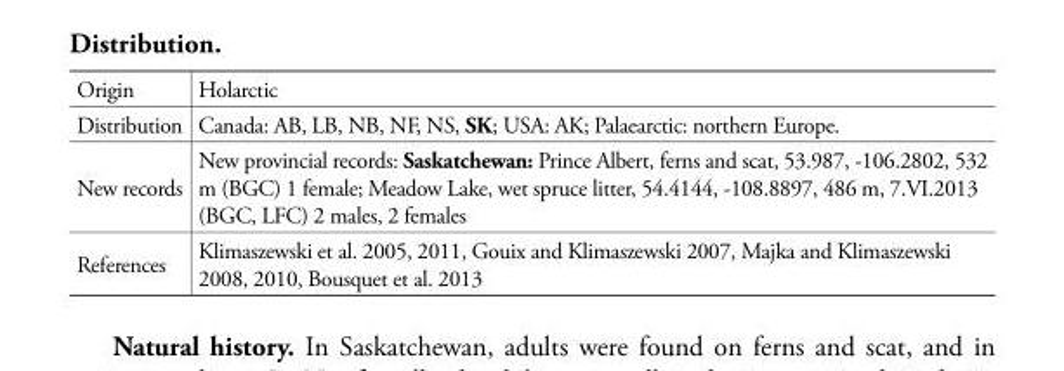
<table><tbody><tr><td>Origin</td><td>Holarctic</td></tr><tr><td>Distribution</td><td>Canada: AB, LB, NB, NF, NS, SK; USA: AK; Palaearctic: northern Europe.</td></tr><tr><td>New records</td><td>New provincial records: Saskatchewan: Prince Albert, ferns and scat, 53.987, -106.2802, 532 m (BGC) 1 female; Meadow Lake, wet spruce litter, 54.4144, -108.8897, 486 m, 7.VI.2013 (BGC, LFC) 2 males, 2 females</td></tr><tr><td>References</td><td>Klimaszewski et al. 2005, 2011, Gouix and Klimaszewski 2007, Majka and Klimaszewski 2008, 2010, Bousquet et al. 2013</td></tr></tbody></table>